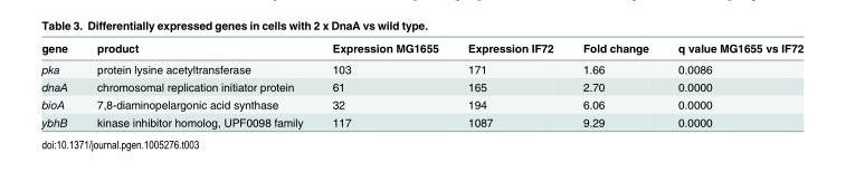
<table><thead><tr><td>gene</td><td>product</td><td>Expression MG1655</td><td>Expression IF72</td><td>Fold change</td><td>q value MG1655 vs IF72</td></tr></thead><tbody><tr><td>pka</td><td>protein lysine acetyltransferase</td><td>103</td><td>171</td><td>1.66</td><td>0.0086</td></tr><tr><td>dnaA</td><td>chromosomal replication initiator protein</td><td>61</td><td>165</td><td>2.70</td><td>0.0000</td></tr><tr><td>bioA</td><td>7,8-diaminopelargonic acid synthase</td><td>32</td><td>194</td><td>6.06</td><td>0.0000</td></tr><tr><td>ybhB</td><td>kinase inhibitor homolog, UPF0098 family</td><td>117</td><td>1087</td><td>9.29</td><td>0.0000</td></tr></tbody></table>